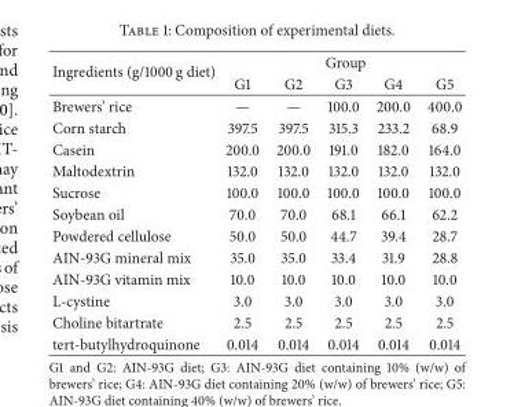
<table><thead><tr><td rowspan="2">Ingredients (g/1000 g diet)</td><td colspan="5">Group</td></tr><tr><td>G1</td><td>G2</td><td>G3</td><td>G4</td><td>G5</td></tr></thead><tbody><tr><td>Brewers’ rice</td><td>—</td><td>—</td><td>100.0</td><td>200.0</td><td>400.0</td></tr><tr><td>Corn starch</td><td>397.5</td><td>397.5</td><td>315.3</td><td>233.2</td><td>68.9</td></tr><tr><td>Casein</td><td>200.0</td><td>200.0</td><td>191.0</td><td>182.0</td><td>164.0</td></tr><tr><td>Maltodextrin</td><td>132.0</td><td>132.0</td><td>132.0</td><td>132.0</td><td>132.0</td></tr><tr><td>Sucrose</td><td>100.0</td><td>100.0</td><td>100.0</td><td>100.0</td><td>100.0</td></tr><tr><td>Soybean oil</td><td>70.0</td><td>70.0</td><td>68.1</td><td>66.1</td><td>62.2</td></tr><tr><td>Powdered cellulose</td><td>50.0</td><td>50.0</td><td>44.7</td><td>39.4</td><td>28.7</td></tr><tr><td>AIN-93G mineral mix</td><td>35.0</td><td>35.0</td><td>33.4</td><td>31.9</td><td>28.8</td></tr><tr><td>AIN-93G vitamin mix</td><td>10.0</td><td>10.0</td><td>10.0</td><td>10.0</td><td>10.0</td></tr><tr><td>L-cystine</td><td>3.0</td><td>3.0</td><td>3.0</td><td>3.0</td><td>3.0</td></tr><tr><td>Choline bitartrate</td><td>2.5</td><td>2.5</td><td>2.5</td><td>2.5</td><td>2.5</td></tr><tr><td>tert-butylhydroquinone</td><td>0.014</td><td>0.014</td><td>0.014</td><td>0.014</td><td>0.014</td></tr></tbody></table>